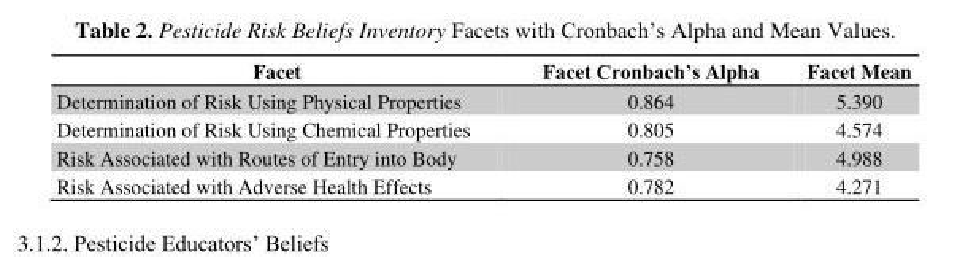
<table><thead><tr><td>Facet</td><td>Facet Cronbach’s Alpha</td><td>Facet Mean</td></tr></thead><tbody><tr><td>Determination of Risk Using Physical Properties</td><td>0.864</td><td>5.390</td></tr><tr><td>Determination of Risk Using Chemical Properties</td><td>0.805</td><td>4.574</td></tr><tr><td>Risk Associated with Routes of Entry into Body</td><td>0.758</td><td>4.988</td></tr><tr><td>Risk Associated with Adverse Health Effects</td><td>0.782</td><td>4.271</td></tr></tbody></table>